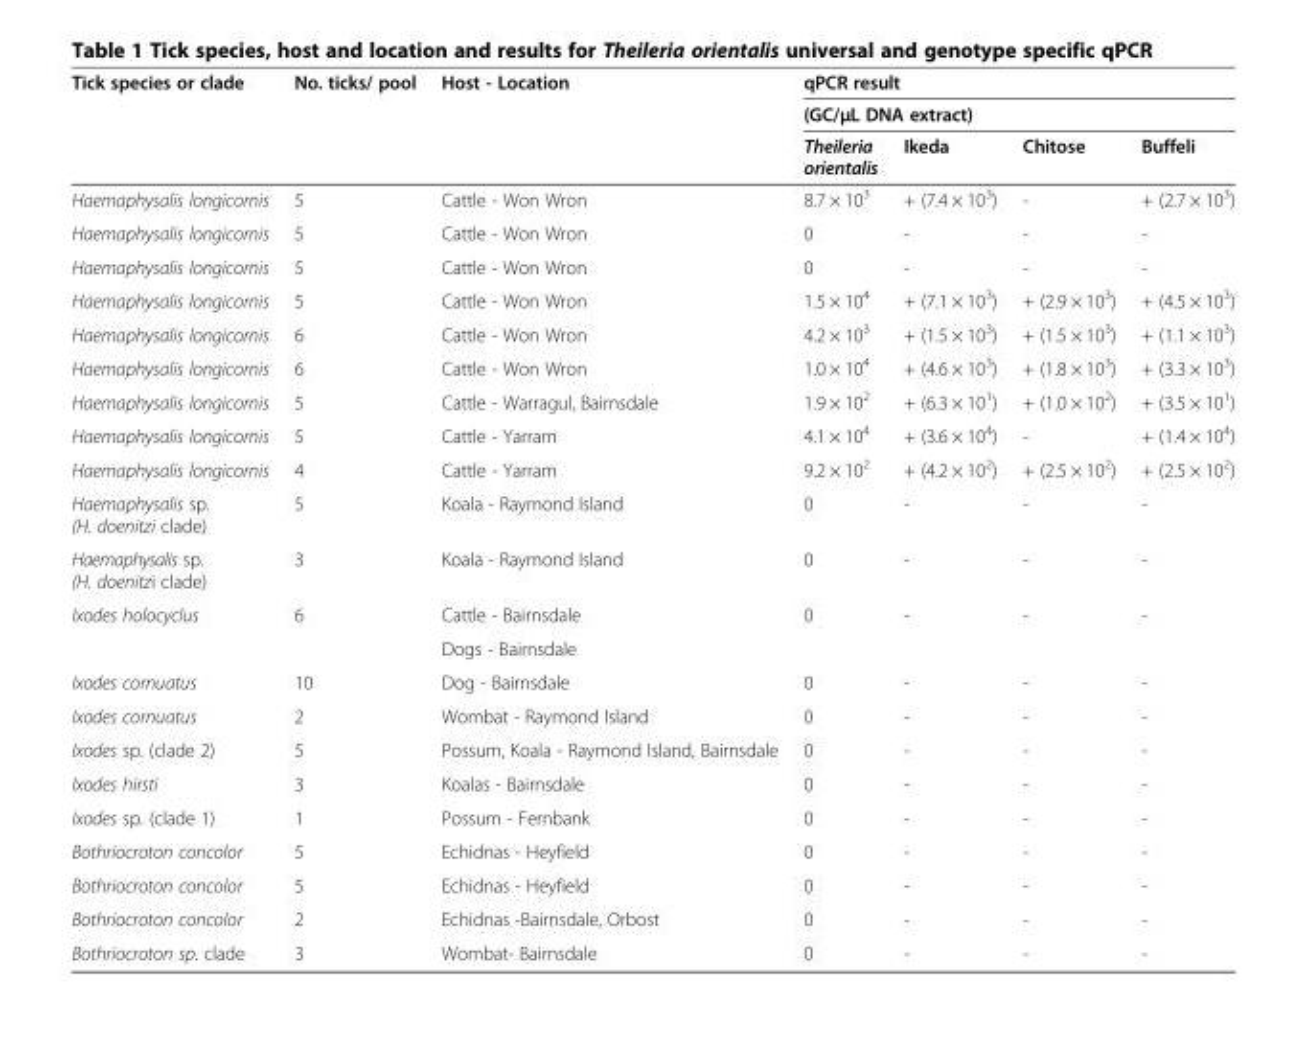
<table><thead><tr><td rowspan="3">Tick species or clade</td><td rowspan="3">No. ticks/ pool</td><td rowspan="3">Host - Location</td><td rowspan="2" colspan="4">qPCR result (GC/μL DNA extract)</td></tr><tr></tr><tr><td>Theileria orientalis</td><td>Ikeda</td><td>Chitose</td><td>Buffeli</td></tr></thead><tbody><tr><td>Haemaphysalis longicornis</td><td>5</td><td>Cattle - Won Wron</td><td>8.7 × 10<sup>3</sup></td><td>+ (7.4 × 10<sup>3</sup>)</td><td>-</td><td>+ (2.7 × 10<sup>3</sup>)</td></tr><tr><td>Haemaphysalis longicornis</td><td>5</td><td>Cattle - Won Wron</td><td>0</td><td>-</td><td>-</td><td>-</td></tr><tr><td>Haemaphysalis longicornis</td><td>5</td><td>Cattle - Won Wron</td><td>0</td><td>-</td><td>-</td><td>-</td></tr><tr><td>Haemaphysalis longicornis</td><td>5</td><td>Cattle - Won Wron</td><td>1.5 × 10<sup>4</sup></td><td>+ (7.1 × 10<sup>3</sup>)</td><td>+ (2.9 × 10<sup>3</sup>)</td><td>+ (4.5 × 10<sup>3</sup>)</td></tr><tr><td>Haemaphysalis longicornis</td><td>6</td><td>Cattle - Won Wron</td><td>4.2 × 10<sup>3</sup></td><td>+ (1.5 × 10<sup>3</sup>)</td><td>+ (1.5 × 10<sup>3</sup>)</td><td>+ (1.1 × 10<sup>3</sup>)</td></tr><tr><td>Haemaphysalis longicornis</td><td>6</td><td>Cattle - Won Wron</td><td>1.0 × 10<sup>4</sup></td><td>+ (4.6 × 10<sup>3</sup>)</td><td>+ (1.8 × 10<sup>3</sup>)</td><td>+ (3.3 × 10<sup>3</sup>)</td></tr><tr><td>Haemaphysalis longicornis</td><td>5</td><td>Cattle - Warragul, Bairnsdale</td><td>1.9 × 10<sup>2</sup></td><td>+ (6.3 × 10<sup>1</sup>)</td><td>+ (1.0 × 10<sup>2</sup>)</td><td>+ (3.5 × 10<sup>1</sup>)</td></tr><tr><td>Haemaphysalis longicornis</td><td>5</td><td>Cattle - Yarram</td><td>4.1 × 10<sup>4</sup></td><td>+ (3.6 × 10<sup>4</sup>)</td><td>-</td><td>+ (1.4 × 10<sup>4</sup>)</td></tr><tr><td>Haemaphysalis longicornis</td><td>4</td><td>Cattle - Yarram</td><td>9.2 × 10<sup>2</sup></td><td>+ (4.2 × 10<sup>2</sup>)</td><td>+ (2.5 × 10<sup>2</sup>)</td><td>+ (2.5 × 10<sup>2</sup>)</td></tr><tr><td>Haemaphysalis sp. (H. doenitzi clade)</td><td>5</td><td>Koala - Raymond Island</td><td>0</td><td>-</td><td>-</td><td>-</td></tr><tr><td>Haemaphysalis sp. (H. doenitzi clade)</td><td>3</td><td>Koala - Raymond Island</td><td>0</td><td>-</td><td>-</td><td>-</td></tr><tr><td rowspan="2">Ixodes holocyclus</td><td rowspan="2">6</td><td>Cattle - Bairnsdale</td><td rowspan="2">0</td><td rowspan="2">-</td><td rowspan="2">-</td><td rowspan="2">-</td></tr><tr><td>Dogs - Bairnsdale</td></tr><tr><td>Ixodes cornuatus</td><td>10</td><td>Dog - Bairnsdale</td><td>0</td><td>-</td><td>-</td><td>-</td></tr><tr><td>Ixodes cornuatus</td><td>2</td><td>Wombat - Raymond Island</td><td>0</td><td>-</td><td>-</td><td>-</td></tr><tr><td>Ixodes sp. (clade 2)</td><td>5</td><td>Possum, Koala - Raymond Island, Bairnsdale</td><td>0</td><td>-</td><td>-</td><td>-</td></tr><tr><td>Ixodes hirsti</td><td>3</td><td>Koalas - Bairnsdale</td><td>0</td><td>-</td><td>-</td><td>-</td></tr><tr><td>Ixodes sp. (clade 1)</td><td>1</td><td>Possum - Fernbank</td><td>0</td><td>-</td><td>-</td><td>-</td></tr><tr><td>Bothriocroton concolor</td><td>5</td><td>Echidnas - Heyfield</td><td>0</td><td>-</td><td>-</td><td>-</td></tr><tr><td>Bothriocroton concolor</td><td>5</td><td>Echidnas - Heyfield</td><td>0</td><td>-</td><td>-</td><td>-</td></tr><tr><td>Bothriocroton concolor</td><td>2</td><td>Echidnas -Bairnsdale, Orbost</td><td>0</td><td>-</td><td>-</td><td>-</td></tr><tr><td>Bothriocroton sp. clade</td><td>3</td><td>Wombat- Bairnsdale</td><td>0</td><td>-</td><td>-</td><td>-</td></tr></tbody></table>